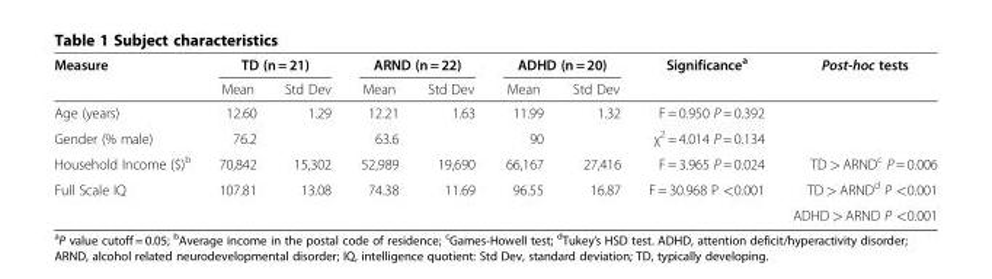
<table><thead><tr><td rowspan="2">Measure</td><td colspan="2">TD (n = 21)</td><td colspan="2">ARND (n = 22)</td><td colspan="2">ADHD (n = 20)</td><td rowspan="2">Significance<sup>a</sup></td><td rowspan="2">Post-hoc tests</td></tr><tr><td>Mean</td><td>Std Dev</td><td>Mean</td><td>Std Dev</td><td>Mean</td><td>Std Dev</td></tr></thead><tbody><tr><td>Age (years)</td><td>12.60</td><td>1.29</td><td>12.21</td><td>1.63</td><td>11.99</td><td>1.32</td><td>F = 0.950 P = 0.392</td><td></td></tr><tr><td>Gender (% male)</td><td>76.2</td><td></td><td>63.6</td><td></td><td>90</td><td></td><td>χ<sup>2</sup> = 4.014 P = 0.134</td><td></td></tr><tr><td>Household Income ($)<sup>b</sup></td><td>70,842</td><td>15,302</td><td>52,989</td><td>19,690</td><td>66,167</td><td>27,416</td><td>F = 3.965 P = 0.024</td><td>TD &gt; ARND<sup>c</sup> P = 0.006</td></tr><tr><td rowspan="2">Full Scale IQ</td><td rowspan="2">107.81</td><td rowspan="2">13.08</td><td rowspan="2">74.38</td><td rowspan="2">11.69</td><td rowspan="2">96.55</td><td rowspan="2">16.87</td><td rowspan="2">F = 30.968 P &lt;0.001</td><td>TD &gt; ARND<sup>d</sup> P &lt;0.001</td></tr><tr><td>ADHD &gt; ARND P &lt;0.001</td></tr></tbody></table>